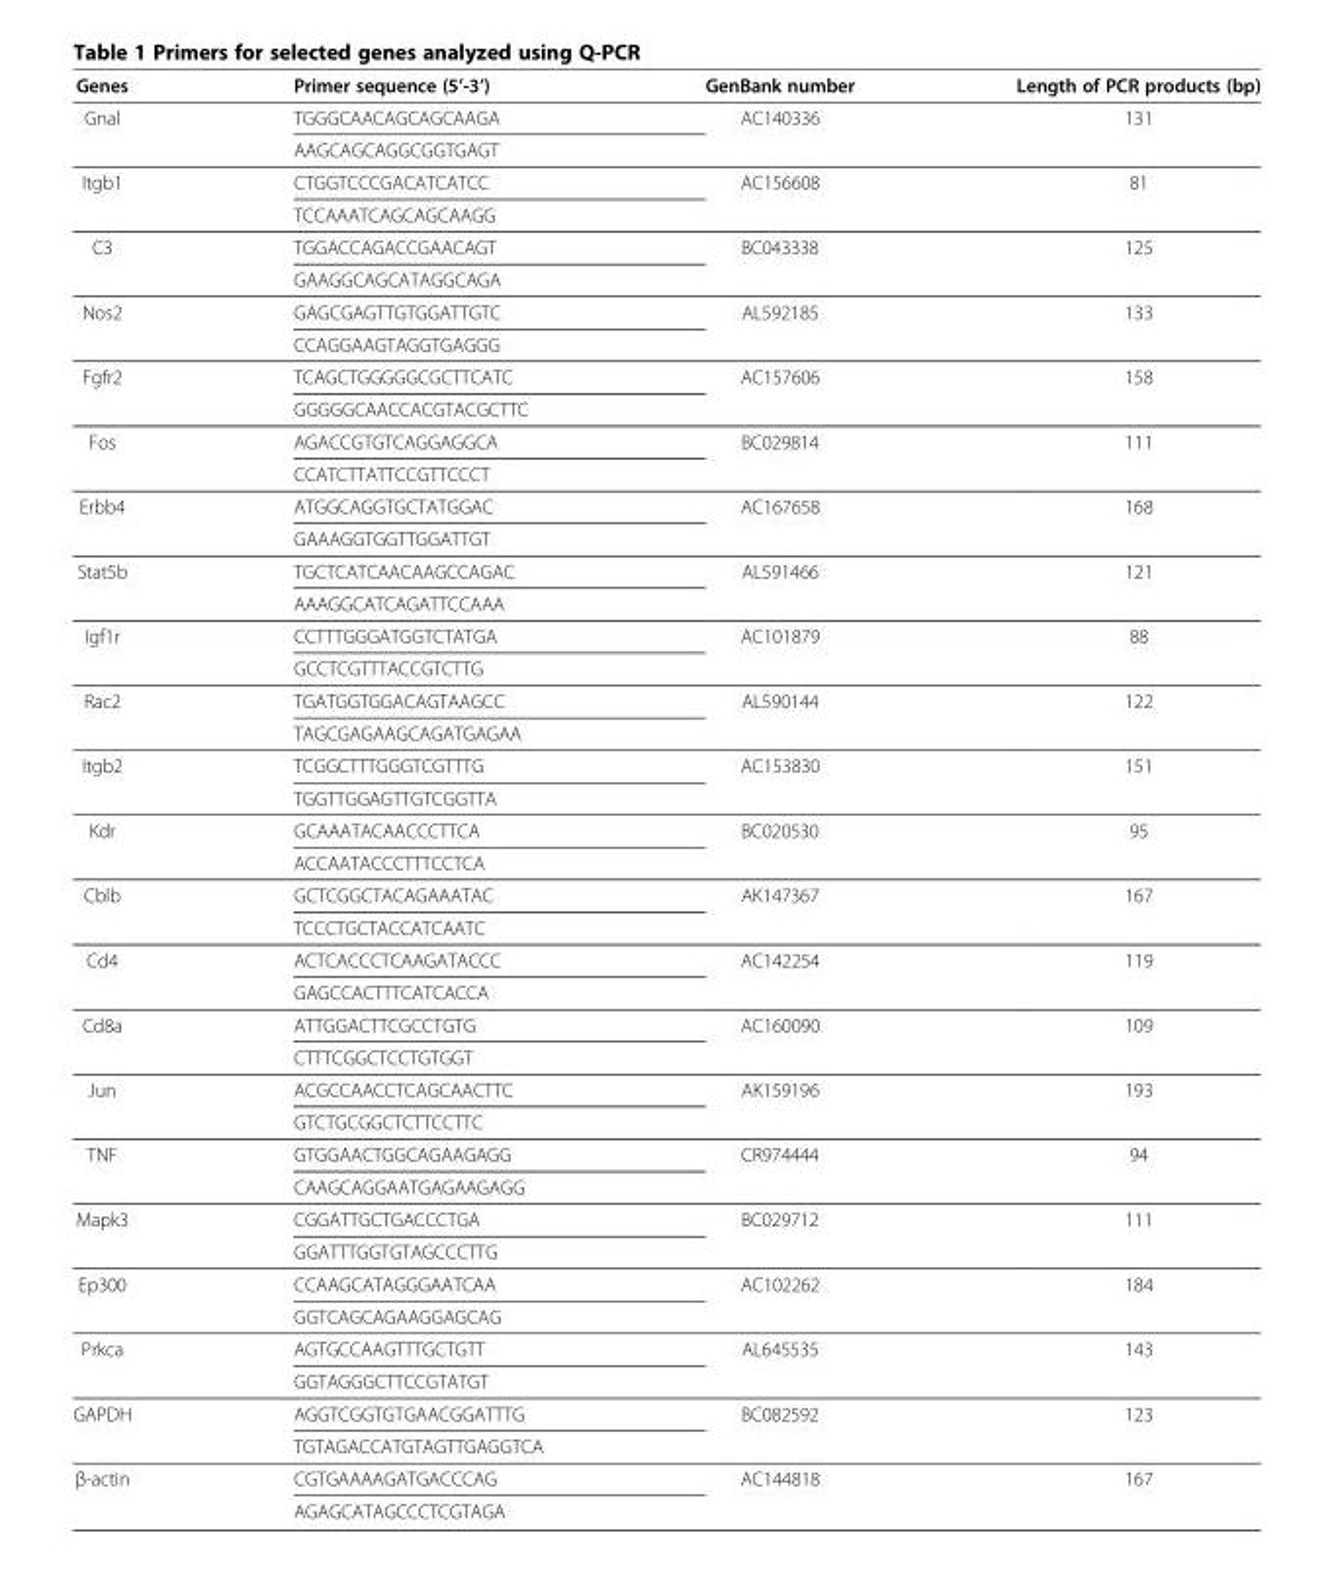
<table><thead><tr><td>Genes</td><td>Primer sequence (5’-3’)</td><td>GenBank number</td><td>Length of PCR products (bp)</td></tr></thead><tbody><tr><td rowspan="2">Gnal</td><td>TGGGCAACAGCAGCAAGA</td><td>AC140336</td><td>131</td></tr><tr><td>AAGCAGCAGGCGGTGAGT</td><td></td><td></td></tr><tr><td rowspan="2">Itgb1</td><td>CTGGTCCCGACATCATCC</td><td>AC156608</td><td>81</td></tr><tr><td>TCCAAATCAGCAGCAAGG</td><td></td><td></td></tr><tr><td rowspan="2">C3</td><td>TGGACCAGACCGAACAGT</td><td>BC043338</td><td>125</td></tr><tr><td>GAAGGCAGCATAGGCAGA</td><td></td><td></td></tr><tr><td rowspan="2">Nos2</td><td>GAGCGAGTTGTGGATTGTC</td><td>AL592185</td><td>133</td></tr><tr><td>CCAGGAAGTAGGTGAGGG</td><td></td><td></td></tr><tr><td rowspan="2">Fgfr2</td><td>TCAGCTGGGGGCGCTTCATC</td><td>AC157606</td><td>158</td></tr><tr><td>GGGGGCAACCACGTACGCTTC</td><td></td><td></td></tr><tr><td rowspan="2">Fos</td><td>AGACCGTGTCAGGAGGCA</td><td>BC029814</td><td>111</td></tr><tr><td>CCATCTTATTCCGTTCCCT</td><td></td><td></td></tr><tr><td rowspan="2">Erbb4</td><td>ATGGCAGGTGCTATGGAC</td><td>AC167658</td><td>168</td></tr><tr><td>GAAAGGTGGTTGGATTGT</td><td></td><td></td></tr><tr><td rowspan="2">Stat5b</td><td>TGCTCATCAACAAGCCAGAC</td><td>AL591466</td><td>121</td></tr><tr><td>AAAGGCATCAGATTCCAAA</td><td></td><td></td></tr><tr><td rowspan="2">Igf1r</td><td>CCTTTGGGATGGTCTATGA</td><td>AC101879</td><td>88</td></tr><tr><td>GCCTCGTTTACCGTCTTG</td><td></td><td></td></tr><tr><td rowspan="2">Rac2</td><td>TGATGGTGGACAGTAAGCC</td><td>AL590144</td><td>122</td></tr><tr><td>TAGCGAGAAGCAGATGAGAA</td><td></td><td></td></tr><tr><td rowspan="2">Itgb2</td><td>TCGGCTTTGGGTCGTTTG</td><td>AC153830</td><td>151</td></tr><tr><td>TGGTTGGAGTTGTCGGTTA</td><td></td><td></td></tr><tr><td rowspan="2">Kdr</td><td>GCAAATACAACCCTTCA</td><td>BC020530</td><td>95</td></tr><tr><td>ACCAATACCCTTTCCTCA</td><td></td><td></td></tr><tr><td rowspan="2">Cblb</td><td>GCTCGGCTACAGAAATAC</td><td>AK147367</td><td>167</td></tr><tr><td>TCCCTGCTACCATCAATC</td><td></td><td></td></tr><tr><td rowspan="2">Cd4</td><td>ACTCACCCTCAAGATACCC</td><td>AC142254</td><td>119</td></tr><tr><td>GAGCCACTTTCATCACCA</td><td></td><td></td></tr><tr><td rowspan="2">Cd8a</td><td>ATTGGACTTCGCCTGTG</td><td>AC160090</td><td>109</td></tr><tr><td>CTTTCGGCTCCTGTGGT</td><td></td><td></td></tr><tr><td rowspan="2">Jun</td><td>ACGCCAACCTCAGCAACTTC</td><td>AK159196</td><td>193</td></tr><tr><td>GTCTGCGGCTCTTCCTTC</td><td></td><td></td></tr><tr><td rowspan="2">TNF</td><td>GTGGAACTGGCAGAAGAGG</td><td>CR974444</td><td>94</td></tr><tr><td>CAAGCAGGAATGAGAAGAGG</td><td></td><td></td></tr><tr><td rowspan="2">Mapk3</td><td>CGGATTGCTGACCCTGA</td><td>BC029712</td><td>111</td></tr><tr><td>GGATTTGGTGTAGCCCTTG</td><td></td><td></td></tr><tr><td rowspan="2">Ep300</td><td>CCAAGCATAGGGAATCAA</td><td>AC102262</td><td>184</td></tr><tr><td>GGTCAGCAGAAGGAGCAG</td><td></td><td></td></tr><tr><td rowspan="2">Prkca</td><td>AGTGCCAAGTTTGCTGTT</td><td>AL645535</td><td>143</td></tr><tr><td>GGTAGGGCTTCCGTATGT</td><td></td><td></td></tr><tr><td rowspan="2">GAPDH</td><td>AGGTCGGTGTGAACGGATTTG</td><td>BC082592</td><td>123</td></tr><tr><td>TGTAGACCATGTAGTTGAGGTCA</td><td></td><td></td></tr><tr><td rowspan="2">β-actin</td><td>CGTGAAAAGATGACCCAG</td><td>AC144818</td><td>167</td></tr><tr><td>AGAGCATAGCCCTCGTAGA</td><td></td><td></td></tr></tbody></table>